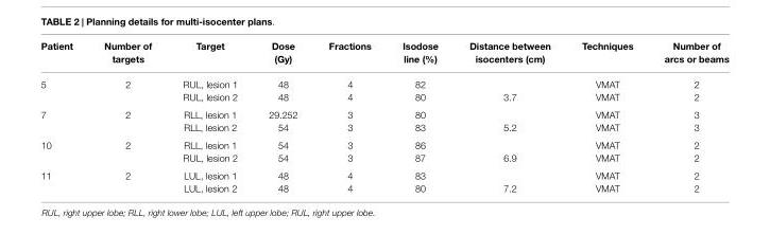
<table><thead><tr><td>Patient</td><td>Number of targets</td><td>Target</td><td>Dose (Gy)</td><td>Fractions</td><td>Isodose line (%)</td><td>Distance between isocenters (cm)</td><td>Techniques</td><td>Number of arcs or beams</td></tr></thead><tbody><tr><td rowspan="2">5</td><td>2</td><td>RUL, lesion 1</td><td>48</td><td>4</td><td>82</td><td></td><td>VMAT</td><td>2</td></tr><tr><td></td><td>RUL, lesion 2</td><td>48</td><td>4</td><td>80</td><td>3.7</td><td>VMAT</td><td>2</td></tr><tr><td rowspan="2">7</td><td>2</td><td>RLL, lesion 1</td><td>29.252</td><td>3</td><td>80</td><td></td><td>VMAT</td><td>3</td></tr><tr><td></td><td>RLL, lesion 2</td><td>54</td><td>3</td><td>83</td><td>5.2</td><td>VMAT</td><td>3</td></tr><tr><td rowspan="2">10</td><td>2</td><td>RLL, lesion 1</td><td>54</td><td>3</td><td>86</td><td></td><td>VMAT</td><td>2</td></tr><tr><td></td><td>RUL, lesion 2</td><td>54</td><td>3</td><td>87</td><td>6.9</td><td>VMAT</td><td>2</td></tr><tr><td rowspan="2">11</td><td>2</td><td>LUL, lesion 1</td><td>48</td><td>4</td><td>83</td><td></td><td>VMAT</td><td>2</td></tr><tr><td></td><td>LUL, lesion 2</td><td>48</td><td>4</td><td>80</td><td>7.2</td><td>VMAT</td><td>2</td></tr></tbody></table>